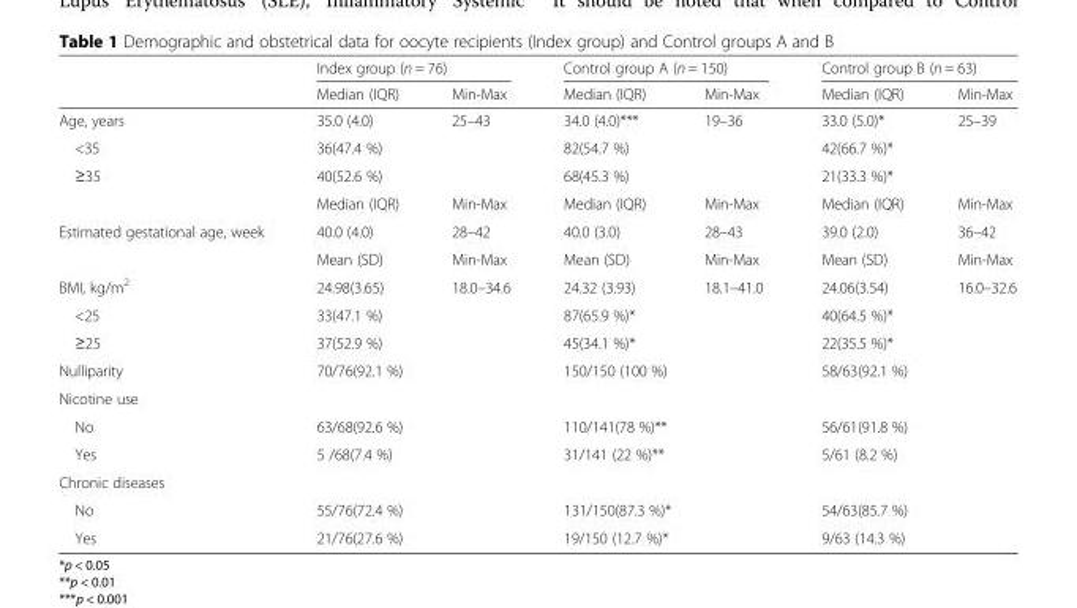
<table><thead><tr><td rowspan="2"></td><td colspan="2">Index group (n = 76)</td><td colspan="2">Control group A (n = 150)</td><td colspan="2">Control group B (n = 63)</td></tr><tr><td>Median (IQR)</td><td>Min-Max</td><td>Median (IQR)</td><td>Min-Max</td><td>Median (IQR)</td><td>Min-Max</td></tr></thead><tbody><tr><td>Age, years</td><td>35.0 (4.0)</td><td>25–43</td><td>34.0 (4.0)***</td><td>19–36</td><td>33.0 (5.0)*</td><td>25–39</td></tr><tr><td>&lt;35</td><td>36(47.4 %)</td><td></td><td>82(54.7 %)</td><td></td><td>42(66.7 %)*</td><td></td></tr><tr><td rowspan="2">≥35</td><td>40(52.6 %)</td><td></td><td>68(45.3 %)</td><td></td><td>21(33.3 %)*</td><td></td></tr><tr><td>Median (IQR)</td><td>Min-Max</td><td>Median (IQR)</td><td>Min-Max</td><td>Median (IQR)</td><td>Min-Max</td></tr><tr><td rowspan="2">Estimated gestational age, week</td><td>40.0 (4.0)</td><td>28–42</td><td>40.0 (3.0)</td><td>28–43</td><td>39.0 (2.0)</td><td>36–42</td></tr><tr><td>Mean (SD)</td><td>Min-Max</td><td>Mean (SD)</td><td>Min-Max</td><td>Mean (SD)</td><td>Min-Max</td></tr><tr><td>BMI, kg/m<sup>2</sup></td><td>24.98(3.65)</td><td>18.0–34.6</td><td>24.32 (3.93)</td><td>18.1–41.0</td><td>24.06(3.54)</td><td>16.0–32.6</td></tr><tr><td>&lt;25</td><td>33(47.1 %)</td><td></td><td colspan="2">87(65.9 %)*</td><td>40(64.5 %)*</td><td></td></tr><tr><td>≥25</td><td>37(52.9 %)</td><td></td><td colspan="2">45(34.1 %)*</td><td>22(35.5 %)*</td><td></td></tr><tr><td>Nulliparity</td><td colspan="2">70/76(92.1 %)</td><td colspan="2">150/150 (100 %)</td><td colspan="2">58/63(92.1 %)</td></tr><tr><td colspan="7">Nicotine use</td></tr><tr><td>No</td><td colspan="2">63/68(92.6 %)</td><td colspan="2">110/141(78 %)**</td><td colspan="2">56/61(91.8 %)</td></tr><tr><td>Yes</td><td colspan="2">5 /68(7.4 %)</td><td colspan="2">31/141 (22 %)**</td><td colspan="2">5/61 (8.2 %)</td></tr><tr><td colspan="7">Chronic diseases</td></tr><tr><td>No</td><td colspan="2">55/76(72.4 %)</td><td colspan="2">131/150(87.3 %)*</td><td colspan="2">54/63(85.7 %)</td></tr><tr><td>Yes</td><td colspan="2">21/76(27.6 %)</td><td colspan="2">19/150 (12.7 %)*</td><td colspan="2">9/63 (14.3 %)</td></tr></tbody></table>